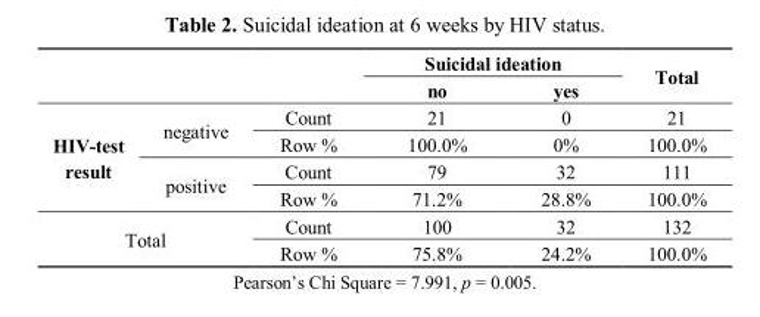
<table><thead><tr><td rowspan="2"></td><td rowspan="2"></td><td rowspan="2"></td><td colspan="2">Suicidal ideation</td><td rowspan="2">Total</td></tr><tr><td>no</td><td>yes</td></tr></thead><tbody><tr><td rowspan="4">HIV-test result</td><td rowspan="2">negative</td><td>Count</td><td>21</td><td>0</td><td>21</td></tr><tr><td>Row %</td><td>100.0%</td><td>0%</td><td>100.0%</td></tr><tr><td rowspan="2">positive</td><td>Count</td><td>79</td><td>32</td><td>111</td></tr><tr><td>Row %</td><td>71.2%</td><td>28.8%</td><td>100.0%</td></tr><tr><td rowspan="2" colspan="2">Total</td><td>Count</td><td>100</td><td>32</td><td>132</td></tr><tr><td>Row %</td><td>75.8%</td><td>24.2%</td><td>100.0%</td></tr></tbody></table>